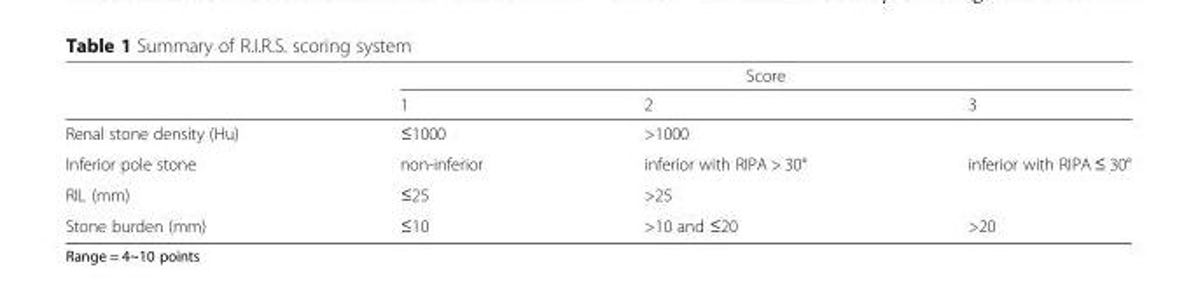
<table><thead><tr><td rowspan="2"></td><td colspan="3">Score</td></tr><tr><td>1</td><td>2</td><td>3</td></tr></thead><tbody><tr><td>Renal stone density (Hu)</td><td>≤1000</td><td>&gt;1000</td><td></td></tr><tr><td>Inferior pole stone</td><td>non-inferior</td><td>inferior with RIPA &gt; 30°</td><td>inferior with RIPA ≤ 30°</td></tr><tr><td>RIL (mm)</td><td>≤25</td><td>&gt;25</td><td></td></tr><tr><td>Stone burden (mm)</td><td>≤10</td><td>&gt;10 and ≤20</td><td>&gt;20</td></tr></tbody></table>